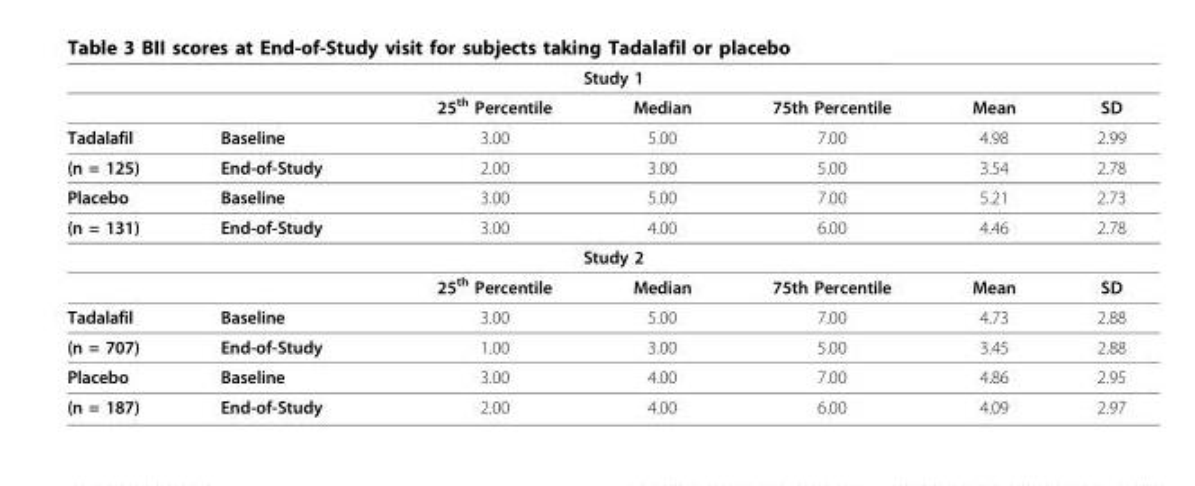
<table><thead><tr><td colspan="7">Study 1</td></tr><tr><td></td><td></td><td>25<sup>th</sup> Percentile</td><td>Median</td><td>75th Percentile</td><td>Mean</td><td>SD</td></tr></thead><tbody><tr><td>Tadalafil</td><td>Baseline</td><td>3.00</td><td>5.00</td><td>7.00</td><td>4.98</td><td>2.99</td></tr><tr><td>(n = 125)</td><td>End-of-Study</td><td>2.00</td><td>3.00</td><td>5.00</td><td>3.54</td><td>2.78</td></tr><tr><td>Placebo</td><td>Baseline</td><td>3.00</td><td>5.00</td><td>7.00</td><td>5.21</td><td>2.73</td></tr><tr><td>(n = 131)</td><td>End-of-Study</td><td>3.00</td><td>4.00</td><td>6.00</td><td>4.46</td><td>2.78</td></tr><tr><td colspan="7">Study 2</td></tr><tr><td></td><td></td><td>25<sup>th</sup> Percentile</td><td>Median</td><td>75th Percentile</td><td>Mean</td><td>SD</td></tr><tr><td>Tadalafil</td><td>Baseline</td><td>3.00</td><td>5.00</td><td>7.00</td><td>4.73</td><td>2.88</td></tr><tr><td>(n = 707)</td><td>End-of-Study</td><td>1.00</td><td>3.00</td><td>5.00</td><td>3.45</td><td>2.88</td></tr><tr><td>Placebo</td><td>Baseline</td><td>3.00</td><td>4.00</td><td>7.00</td><td>4.86</td><td>2.95</td></tr><tr><td>(n = 187)</td><td>End-of-Study</td><td>2.00</td><td>4.00</td><td>6.00</td><td>4.09</td><td>2.97</td></tr></tbody></table>